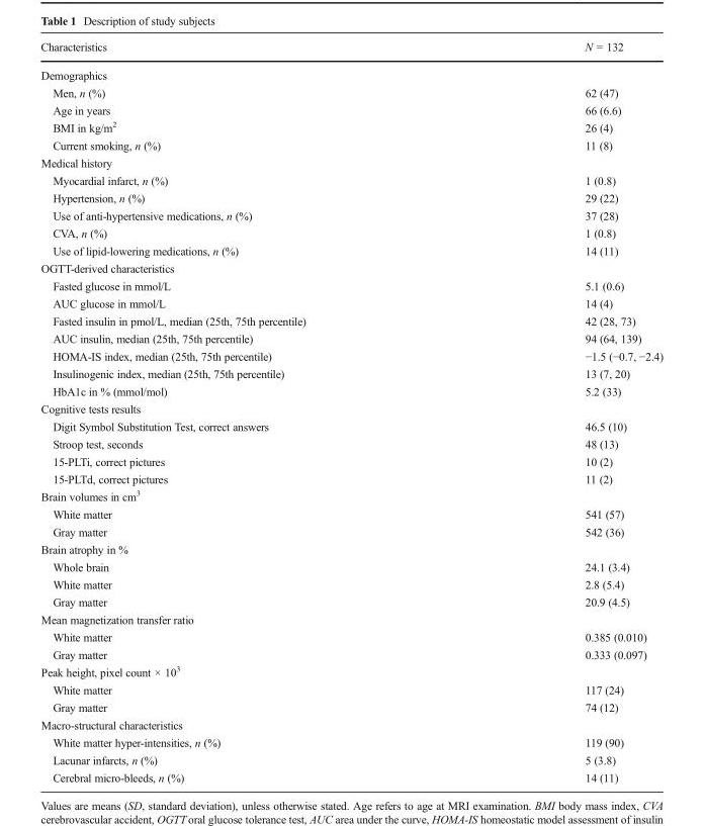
<table><thead><tr><td>Characteristics</td><td>N = 132</td></tr></thead><tbody><tr><td colspan="2">Demographics</td></tr><tr><td>Men, n (%)</td><td>62 (47)</td></tr><tr><td>Age in years</td><td>66 (6.6)</td></tr><tr><td>BMI in kg/m<sup>2</sup></td><td>26 (4)</td></tr><tr><td>Current smoking, n (%)</td><td>11 (8)</td></tr><tr><td colspan="2">Medical history</td></tr><tr><td>Myocardial infarct, n (%)</td><td>1 (0.8)</td></tr><tr><td>Hypertension, n (%)</td><td>29 (22)</td></tr><tr><td>Use of anti-hypertensive medications, n (%)</td><td>37 (28)</td></tr><tr><td>CVA, n (%)</td><td>1 (0.8)</td></tr><tr><td>Use of lipid-lowering medications, n (%)</td><td>14 (11)</td></tr><tr><td colspan="2">OGTT-derived characteristics</td></tr><tr><td>Fasted glucose in mmol/L</td><td>5.1 (0.6)</td></tr><tr><td>AUC glucose in mmol/L</td><td>14 (4)</td></tr><tr><td>Fasted insulin in pmol/L, median (25th, 75th percentile)</td><td>42 (28, 73)</td></tr><tr><td>AUC insulin, median (25th, 75th percentile)</td><td>94 (64, 139)</td></tr><tr><td>HOMA-IS index, median (25th, 75th percentile)</td><td>−1.5 (−0.7, −2.4)</td></tr><tr><td>Insulinogenic index, median (25th, 75th percentile)</td><td>13 (7, 20)</td></tr><tr><td>HbA1c in % (mmol/mol)</td><td>5.2 (33)</td></tr><tr><td colspan="2">Cognitive tests results</td></tr><tr><td>Digit Symbol Substitution Test, correct answers</td><td>46.5 (10)</td></tr><tr><td>Stroop test, seconds</td><td>48 (13)</td></tr><tr><td>15-PLTi, correct pictures</td><td>10 (2)</td></tr><tr><td>15-PLTd, correct pictures</td><td>11 (2)</td></tr><tr><td colspan="2">Brain volumes in cm<sup>3</sup></td></tr><tr><td>White matter</td><td>541 (57)</td></tr><tr><td>Gray matter</td><td>542 (36)</td></tr><tr><td colspan="2">Brain atrophy in %</td></tr><tr><td>Whole brain</td><td>24.1 (3.4)</td></tr><tr><td>White matter</td><td>2.8 (5.4)</td></tr><tr><td>Gray matter</td><td>20.9 (4.5)</td></tr><tr><td colspan="2">Mean magnetization transfer ratio</td></tr><tr><td>White matter</td><td>0.385 (0.010)</td></tr><tr><td>Gray matter</td><td>0.333 (0.097)</td></tr><tr><td colspan="2">Peak height, pixel count × 10<sup>3</sup></td></tr><tr><td>White matter</td><td>117 (24)</td></tr><tr><td>Gray matter</td><td>74 (12)</td></tr><tr><td colspan="2">Macro-structural characteristics</td></tr><tr><td>White matter hyper-intensities, n (%)</td><td>119 (90)</td></tr><tr><td>Lacunar infarcts, n (%)</td><td>5 (3.8)</td></tr><tr><td>Cerebral micro-bleeds, n (%)</td><td>14 (11)</td></tr></tbody></table>